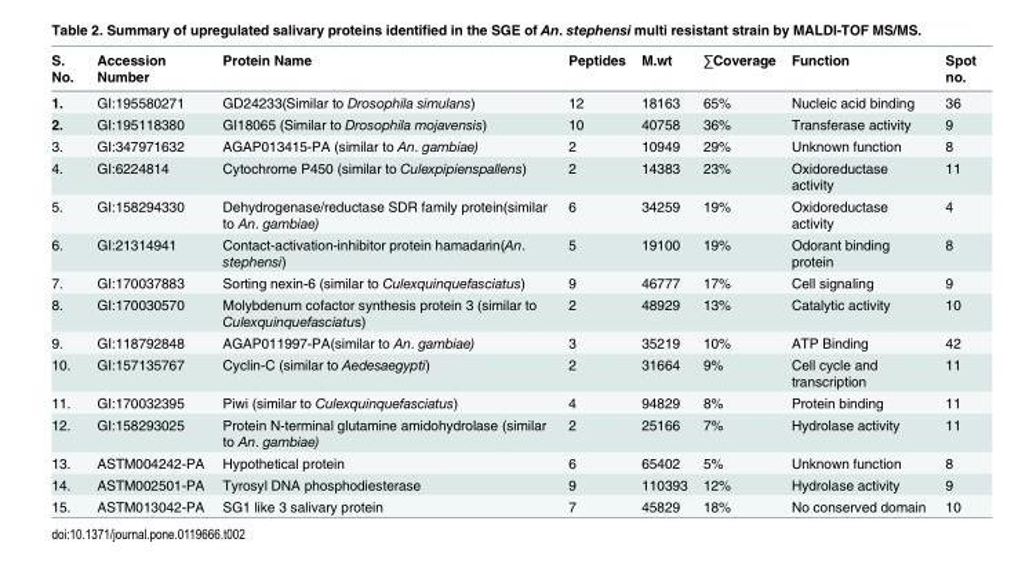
<table><thead><tr><td>S. No.</td><td>Accession Number</td><td>Protein Name</td><td>Peptides</td><td>M.wt</td><td>∑Coverage</td><td>Function</td><td>Spot no.</td></tr></thead><tbody><tr><td>1.</td><td>GI:195580271</td><td>GD24233(Similar to Drosophila simulans)</td><td>12</td><td>18163</td><td>65%</td><td>Nucleic acid binding</td><td>36</td></tr><tr><td>2.</td><td>GI:195118380</td><td>GI18065 (Similar to Drosophila mojavensis)</td><td>10</td><td>40758</td><td>36%</td><td>Transferase activity</td><td>9</td></tr><tr><td>3.</td><td>GI:347971632</td><td>AGAP013415-PA (similar to An. gambiae)</td><td>2</td><td>10949</td><td>29%</td><td>Unknown function</td><td>8</td></tr><tr><td>4.</td><td>GI:6224814</td><td>Cytochrome P450 (similar to Culexpipienspallens)</td><td>2</td><td>14383</td><td>23%</td><td>Oxidoreductase activity</td><td>11</td></tr><tr><td>5.</td><td>GI:158294330</td><td>Dehydrogenase/reductase SDR family protein(similar to An. gambiae)</td><td>6</td><td>34259</td><td>19%</td><td>Oxidoreductase activity</td><td>4</td></tr><tr><td>6.</td><td>GI:21314941</td><td>Contact-activation-inhibitor protein hamadarin(An. stephensi)</td><td>5</td><td>19100</td><td>19%</td><td>Odorant binding protein</td><td>8</td></tr><tr><td>7.</td><td>GI:170037883</td><td>Sorting nexin-6 (similar to Culexquinquefasciatus)</td><td>9</td><td>46777</td><td>17%</td><td>Cell signaling</td><td>9</td></tr><tr><td>8.</td><td>GI:170030570</td><td>Molybdenum cofactor synthesis protein 3 (similar to Culexquinquefasciatus)</td><td>2</td><td>48929</td><td>13%</td><td>Catalytic activity</td><td>10</td></tr><tr><td>9.</td><td>GI:118792848</td><td>AGAP011997-PA(similar to An. gambiae)</td><td>3</td><td>35219</td><td>10%</td><td>ATP Binding</td><td>42</td></tr><tr><td>10.</td><td>GI:157135767</td><td>Cyclin-C (similar to Aedesaegypti)</td><td>2</td><td>31664</td><td>9%</td><td>Cell cycle and transcription</td><td>11</td></tr><tr><td>11.</td><td>GI:170032395</td><td>Piwi (similar to Culexquinquefasciatus)</td><td>4</td><td>94829</td><td>8%</td><td>Protein binding</td><td>11</td></tr><tr><td>12.</td><td>GI:158293025</td><td>Protein N-terminal glutamine amidohydrolase (similar to An. gambiae)</td><td>2</td><td>25166</td><td>7%</td><td>Hydrolase activity</td><td>11</td></tr><tr><td>13.</td><td>ASTM004242-PA</td><td>Hypothetical protein</td><td>6</td><td>65402</td><td>5%</td><td>Unknown function</td><td>8</td></tr><tr><td>14.</td><td>ASTM002501-PA</td><td>Tyrosyl DNA phosphodiesterase</td><td>9</td><td>110393</td><td>12%</td><td>Hydrolase activity</td><td>9</td></tr><tr><td>15.</td><td>ASTM013042-PA</td><td>SG1 like 3 salivary protein</td><td>7</td><td>45829</td><td>18%</td><td>No conserved domain</td><td>10</td></tr></tbody></table>